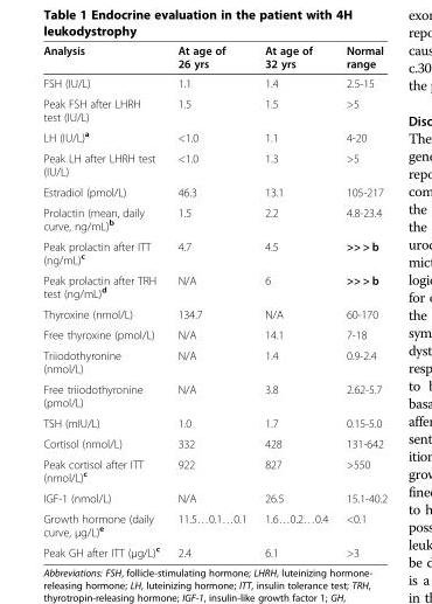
<table><thead><tr><td>Analysis</td><td>At age of 26 yrs</td><td>At age of 32 yrs</td><td>Normal range</td></tr></thead><tbody><tr><td>FSH (IU/L)</td><td>1.1</td><td>1.4</td><td>2.5-15</td></tr><tr><td>Peak FSH after LHRH test (IU/L)</td><td>1.5</td><td>1.5</td><td>&gt;5</td></tr><tr><td>LH (IU/L)<sup>a</sup></td><td>&lt;1.0</td><td>1.1</td><td>4-20</td></tr><tr><td>Peak LH after LHRH test (IU/L)</td><td>&lt;1.0</td><td>1.3</td><td>&gt;5</td></tr><tr><td>Estradiol (pmol/L)</td><td>46.3</td><td>13.1</td><td>105-217</td></tr><tr><td>Prolactin (mean, daily curve, ng/mL)<sup>b</sup></td><td>1.5</td><td>2.2</td><td>4.8-23.4</td></tr><tr><td>Peak prolactin after ITT (ng/mL)<sup>c</sup></td><td>4.7</td><td>4.5</td><td>&gt;&gt; &gt; b</td></tr><tr><td>Peak prolactin after TRH test (ng/mL)<sup>d</sup></td><td>N/A</td><td>6</td><td>&gt;&gt; &gt; b</td></tr><tr><td>Thyroxine (nmol/L)</td><td>134.7</td><td>N/A</td><td>60-170</td></tr><tr><td>Free thyroxine (pmol/L)</td><td>N/A</td><td>14.1</td><td>7-18</td></tr><tr><td>Triiodothyronine (nmol/L)</td><td>N/A</td><td>1.4</td><td>0.9-2.4</td></tr><tr><td>Free triiodothyronine (pmol/L)</td><td>N/A</td><td>3.8</td><td>2.62-5.7</td></tr><tr><td>TSH (mIU/L)</td><td>1.0</td><td>1.7</td><td>0.15-5.0</td></tr><tr><td>Cortisol (nmol/L)</td><td>332</td><td>428</td><td>131-642</td></tr><tr><td>Peak cortisol after ITT (nmol/L)<sup>c</sup></td><td>922</td><td>827</td><td>&gt;550</td></tr><tr><td>IGF-1 (nmol/L)</td><td>N/A</td><td>26.5</td><td>15.1-40.2</td></tr><tr><td>Growth hormone (daily curve, μg/L)<sup>e</sup></td><td>11.5…0.1…0.1</td><td>1.6…0.2…0.4</td><td>&lt;0.1</td></tr><tr><td>Peak GH after ITT (μg/L)<sup>c</sup></td><td>2.4</td><td>6.1</td><td>&gt;3</td></tr></tbody></table>